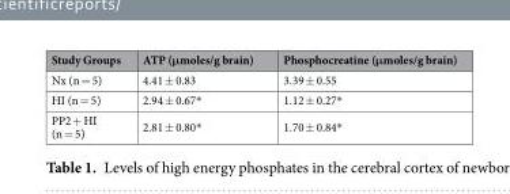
<table><thead><tr><td>Study Groups</td><td>ATP (μmoles/g brain)</td><td>Phosphocreatine (μmoles/g brain)</td></tr></thead><tbody><tr><td>Nx (n = 5)</td><td>4.41 ± 0.83</td><td>3.39 ± 0.55</td></tr><tr><td>HI (n = 5)</td><td>2.94 ± 0.67*</td><td>1.12 ± 0.27*</td></tr><tr><td>PP2 + HI (n = 5)</td><td>2.81 ± 0.80*</td><td>1.70 ± 0.84*</td></tr></tbody></table>